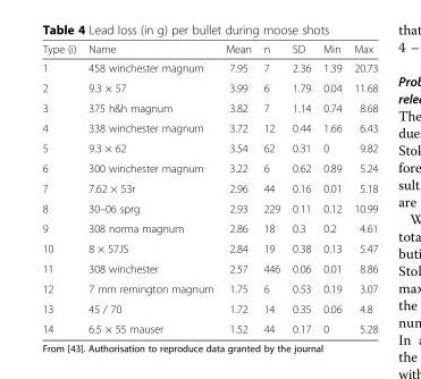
<table><thead><tr><td>Type (i)</td><td>Name</td><td>Mean</td><td>n</td><td>SD</td><td>Min</td><td>Max</td></tr></thead><tbody><tr><td>1</td><td>458 winchester magnum</td><td>7.95</td><td>7</td><td>2.36</td><td>1.39</td><td>20.73</td></tr><tr><td>2</td><td>9.3 × 57</td><td>3.99</td><td>6</td><td>1.79</td><td>0.04</td><td>11.68</td></tr><tr><td>3</td><td>375 h&amp;h magnum</td><td>3.82</td><td>7</td><td>1.14</td><td>0.74</td><td>8.68</td></tr><tr><td>4</td><td>338 winchester magnum</td><td>3.72</td><td>12</td><td>0.44</td><td>1.66</td><td>6.43</td></tr><tr><td>5</td><td>9.3 × 62</td><td>3.54</td><td>62</td><td>0.31</td><td>0</td><td>9.82</td></tr><tr><td>6</td><td>300 winchester magnum</td><td>3.22</td><td>6</td><td>0.62</td><td>0.89</td><td>5.24</td></tr><tr><td>7</td><td>7.62 × 53r</td><td>2.96</td><td>44</td><td>0.16</td><td>0.01</td><td>5.18</td></tr><tr><td>8</td><td>30–06 sprg</td><td>2.93</td><td>229</td><td>0.11</td><td>0.12</td><td>10.99</td></tr><tr><td>9</td><td>308 norma magnum</td><td>2.86</td><td>18</td><td>0.3</td><td>0.2</td><td>4.61</td></tr><tr><td>10</td><td>8 × 57JS</td><td>2.84</td><td>19</td><td>0.38</td><td>0.13</td><td>5.47</td></tr><tr><td>11</td><td>308 winchester</td><td>2.57</td><td>446</td><td>0.06</td><td>0.01</td><td>8.86</td></tr><tr><td>12</td><td>7 mm remington magnum</td><td>1.75</td><td>6</td><td>0.53</td><td>0.19</td><td>3.07</td></tr><tr><td>13</td><td>45 / 70</td><td>1.72</td><td>14</td><td>0.35</td><td>0.06</td><td>4.8</td></tr><tr><td>14</td><td>6.5 × 55 mauser</td><td>1.52</td><td>44</td><td>0.17</td><td>0</td><td>5.28</td></tr></tbody></table>